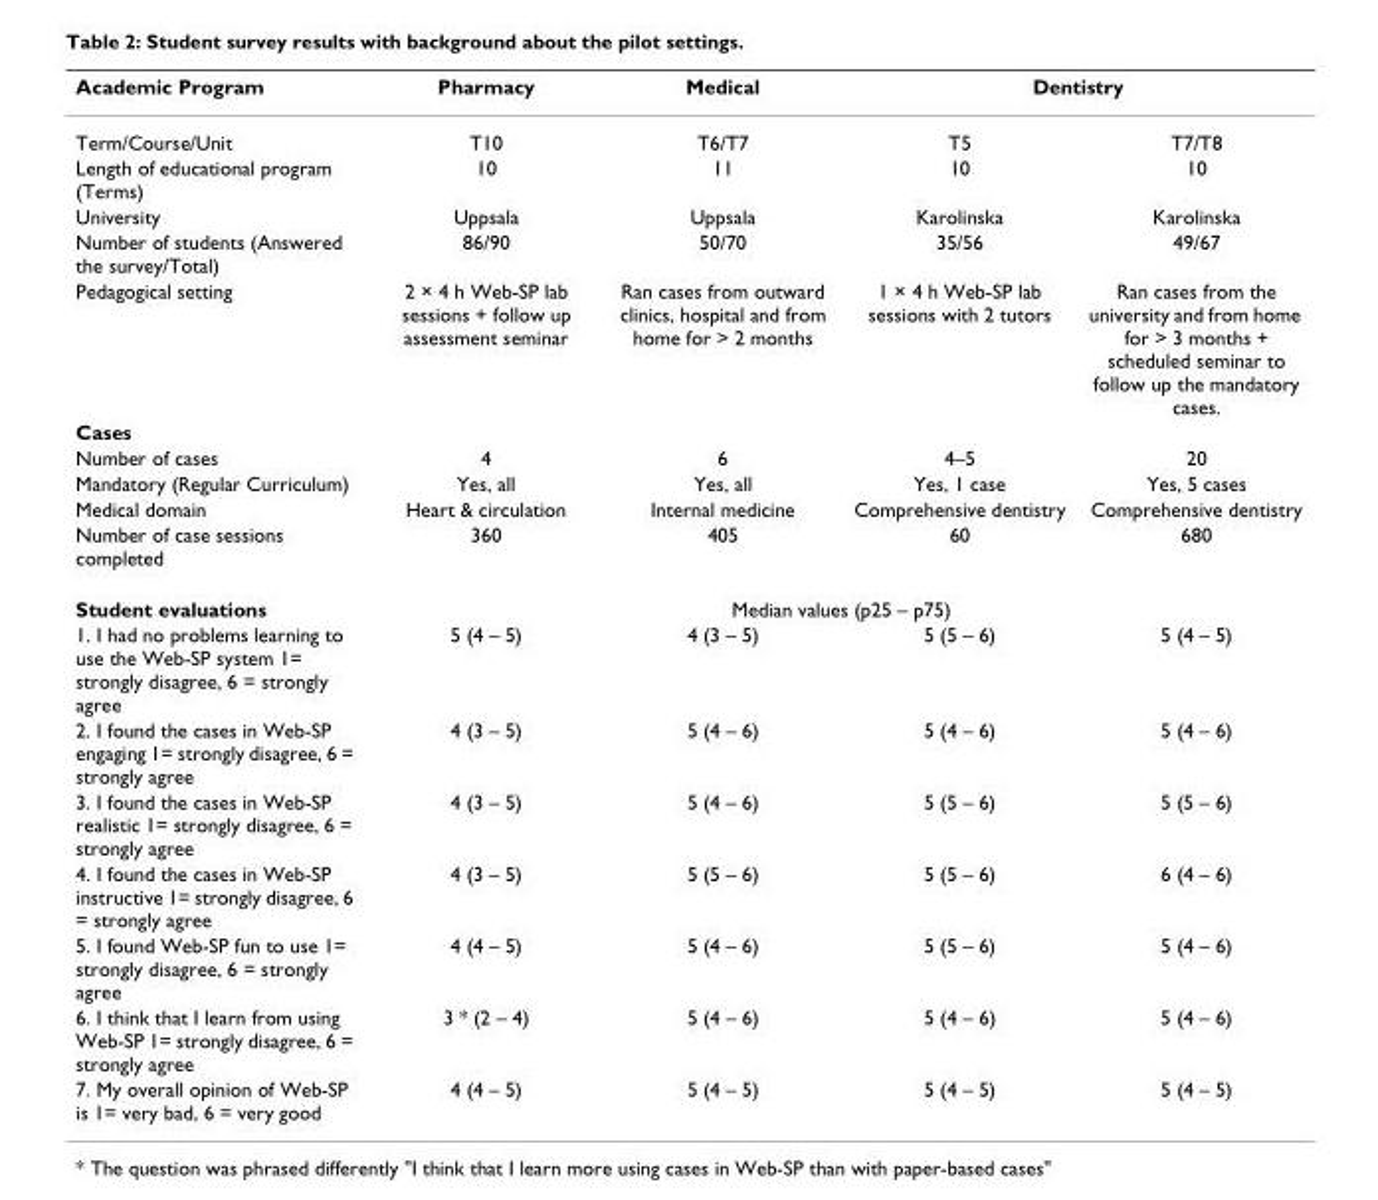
<table><thead><tr><td rowspan="2">Academic Program Term/Course/Unit</td><td rowspan="2">Pharmacy T10</td><td rowspan="2">Medical T6/T7</td><td colspan="2">Dentistry</td></tr><tr><td>T5</td><td>T7/T8</td></tr></thead><tbody><tr><td>Length of educational program (Terms)</td><td>10</td><td>11</td><td>10</td><td>10</td></tr><tr><td>University</td><td>Uppsala</td><td>Uppsala</td><td>Karolinska</td><td>Karolinska</td></tr><tr><td>Number of students (Answered the survey/Total)</td><td>86/90</td><td>50/70</td><td>35/56</td><td>49/67</td></tr><tr><td>Pedagogical setting</td><td>2 × 4 h Web-SP lab sessions + follow up assessment seminar</td><td>Ran cases from outward clinics, hospital and from home for &gt; 2 months</td><td>1 × 4 h Web-SP lab sessions with 2 tutors</td><td>Ran cases from the university and from home for &gt; 3 months + scheduled seminar to follow up the mandatory cases.</td></tr><tr><td colspan="5">Cases</td></tr><tr><td>Number of cases</td><td>4</td><td>6</td><td>4–5</td><td>20</td></tr><tr><td>Mandatory (Regular Curriculum)</td><td>Yes, all</td><td>Yes, all</td><td>Yes, 1 case</td><td>Yes, 5 cases</td></tr><tr><td>Medical domain</td><td>Heart &amp; circulation</td><td>Internal medicine</td><td>Comprehensive dentistry</td><td>Comprehensive dentistry</td></tr><tr><td>Number of case sessions completed</td><td>360</td><td>405</td><td>60</td><td>680</td></tr><tr><td>Student evaluations</td><td colspan="4">Median values (p25 – p75)</td></tr><tr><td>1. I had no problems learning to use the Web-SP system 1= strongly disagree, 6 = strongly agree</td><td>5 (4 – 5)</td><td>4 (3 – 5)</td><td>5 (5 – 6)</td><td>5 (4 – 5)</td></tr><tr><td>2. I found the cases in Web-SP engaging 1= strongly disagree, 6 = strongly agree</td><td>4 (3 – 5)</td><td>5 (4 – 6)</td><td>5 (4 – 6)</td><td>5 (4 – 6)</td></tr><tr><td>3. I found the cases in Web-SP realistic 1= strongly disagree, 6 = strongly agree</td><td>4 (3 – 5)</td><td>5 (4 – 6)</td><td>5 (5 – 6)</td><td>5 (5 – 6)</td></tr><tr><td>4. I found the cases in Web-SP instructive 1= strongly disagree, 6 = strongly agree</td><td>4 (3 – 5)</td><td>5 (5 – 6)</td><td>5 (5 – 6)</td><td>6 (4 – 6)</td></tr><tr><td>5. I found Web-SP fun to use 1= strongly disagree, 6 = strongly agree</td><td>4 (4 – 5)</td><td>5 (4 – 6)</td><td>5 (5 – 6)</td><td>5 (4 – 6)</td></tr><tr><td>6. I think that I learn from using Web-SP 1= strongly disagree, 6 = strongly agree</td><td>3 * (2 – 4)</td><td>5 (4 – 6)</td><td>5 (4 – 6)</td><td>5 (4 – 6)</td></tr><tr><td>7. My overall opinion of Web-SP is 1= very bad, 6 = very good</td><td>4 (4 – 5)</td><td>5 (4 – 5)</td><td>5 (4 – 5)</td><td>5 (4 – 5)</td></tr></tbody></table>